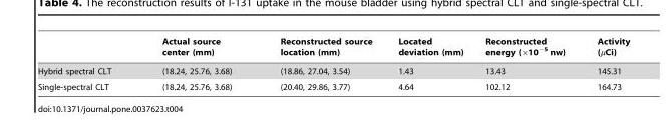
<table><thead><tr><td></td><td>Actual source center (mm)</td><td>Reconstructed source location (mm)</td><td>Located deviation (mm)</td><td>Reconstructed energy (×10<sup>−5</sup> nw)</td><td>Activity (µCi)</td></tr></thead><tbody><tr><td>Hybrid spectral CLT</td><td>(18.24, 25.76, 3.68)</td><td>(18.86, 27.04, 3.54)</td><td>1.43</td><td>13.43</td><td>145.31</td></tr><tr><td>Single-spectral CLT</td><td>(18.24, 25.76, 3.68)</td><td>(20.40, 29.86, 3.77)</td><td>4.64</td><td>102.12</td><td>164.73</td></tr></tbody></table>